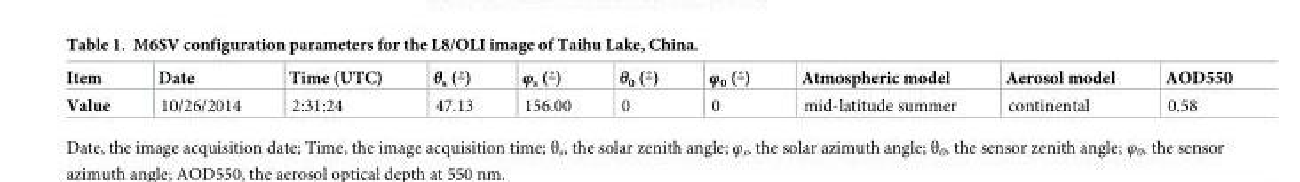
<table><thead><tr><td>Item</td><td>Date</td><td>Time (UTC)</td><td>θs (˚)</td><td>φs (˚)</td><td>θ0 (˚)</td><td>φ0 (˚)</td><td>Atmospheric model</td><td>Aerosol model</td><td>AOD550</td></tr></thead><tbody><tr><td>Value</td><td>10/26/2014</td><td>2:31:24</td><td>47.13</td><td>156.00</td><td>0</td><td>0</td><td>mid-latitude summer</td><td>continental</td><td>0.58</td></tr></tbody></table>